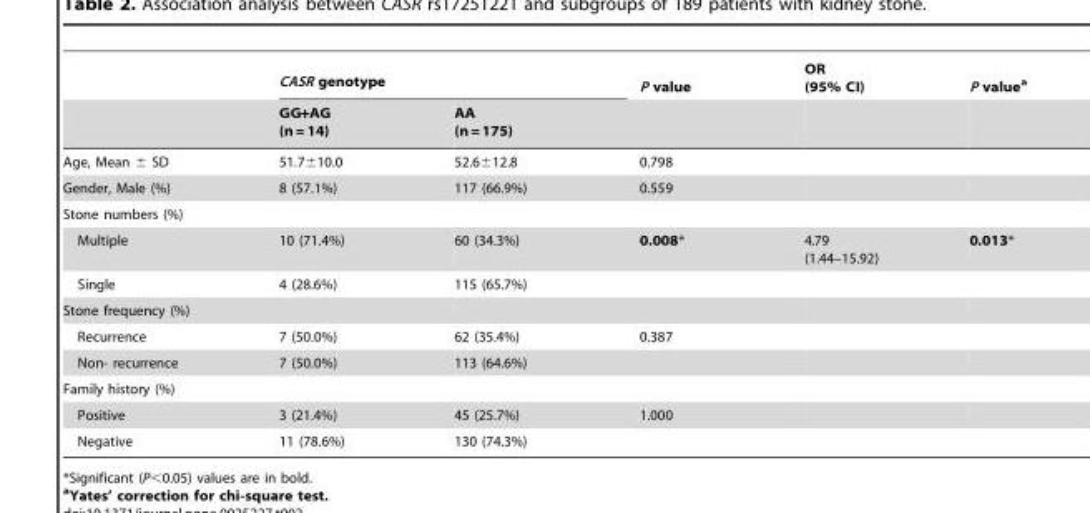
<table><thead><tr><td rowspan="2"></td><td colspan="2">CASR genotype</td><td rowspan="2">P value</td><td rowspan="2">OR (95% CI)</td><td rowspan="2">P value<sup>a</sup></td></tr><tr><td>GG+AG (n = 14)</td><td>AA (n = 175)</td></tr></thead><tbody><tr><td>Age, Mean ± SD</td><td>51.7±10.0</td><td>52.6±12.8</td><td>0.798</td><td></td><td></td></tr><tr><td>Gender, Male (%)</td><td>8 (57.1%)</td><td>117 (66.9%)</td><td>0.559</td><td></td><td></td></tr><tr><td colspan="6">Stone numbers (%)</td></tr><tr><td>Multiple</td><td>10 (71.4%)</td><td>60 (34.3%)</td><td>0.008*</td><td>4.79 (1.44–15.92)</td><td>0.013*</td></tr><tr><td>Single</td><td>4 (28.6%)</td><td>115 (65.7%)</td><td></td><td></td><td></td></tr><tr><td colspan="6">Stone frequency (%)</td></tr><tr><td>Recurrence</td><td>7 (50.0%)</td><td>62 (35.4%)</td><td>0.387</td><td></td><td></td></tr><tr><td>Non- recurrence</td><td>7 (50.0%)</td><td>113 (64.6%)</td><td></td><td></td><td></td></tr><tr><td colspan="6">Family history (%)</td></tr><tr><td>Positive</td><td>3 (21.4%)</td><td>45 (25.7%)</td><td>1.000</td><td></td><td></td></tr><tr><td>Negative</td><td>11 (78.6%)</td><td>130 (74.3%)</td><td></td><td></td><td></td></tr></tbody></table>